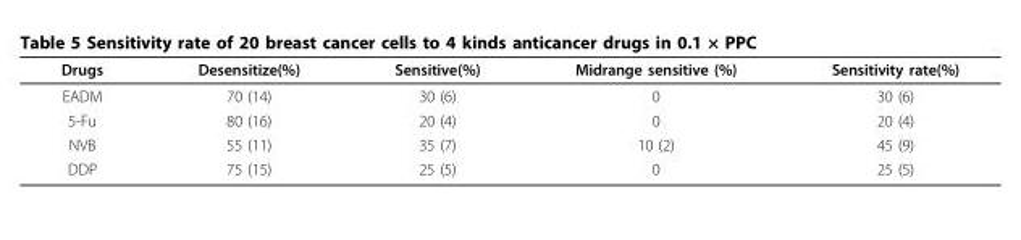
<table><thead><tr><td>Drugs</td><td>Desensitize(%)</td><td>Sensitive(%)</td><td>Midrange sensitive (%)</td><td>Sensitivity rate(%)</td></tr></thead><tbody><tr><td>EADM</td><td>70 (14)</td><td>30 (6)</td><td>0</td><td>30 (6)</td></tr><tr><td>5-Fu</td><td>80 (16)</td><td>20 (4)</td><td>0</td><td>20 (4)</td></tr><tr><td>NVB</td><td>55 (11)</td><td>35 (7)</td><td>10 (2)</td><td>45 (9)</td></tr><tr><td>DDP</td><td>75 (15)</td><td>25 (5)</td><td>0</td><td>25 (5)</td></tr></tbody></table>